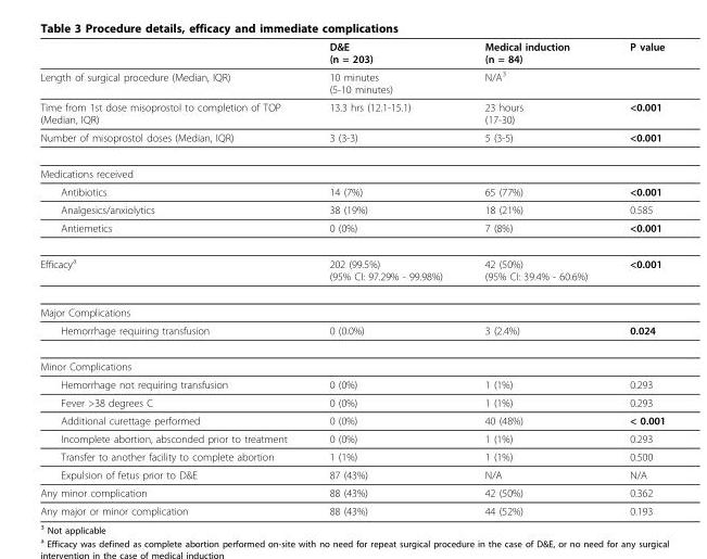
<table><thead><tr><td></td><td>D&amp;E (n = 203)</td><td>Medical induction (n = 84)</td><td>P value</td></tr></thead><tbody><tr><td>Length of surgical procedure (Median, IQR)</td><td>10 minutes (5-10 minutes)</td><td>N/A3</td><td></td></tr><tr><td>Time from 1st dose misoprostol to completion of TOP (Median, IQR)</td><td>13.3 hrs (12.1-15.1)</td><td>23 hours (17-30)</td><td>&lt;0.001</td></tr><tr><td>Number of misoprostol doses (Median, IQR)</td><td>3 (3-3)</td><td>5 (3-5)</td><td>&lt;0.001</td></tr><tr><td colspan="4">Medications received</td></tr><tr><td>Antibiotics</td><td>14 (7%)</td><td>65 (77%)</td><td>&lt;0.001</td></tr><tr><td>Analgesics/anxiolytics</td><td>38 (19%)</td><td>18 (21%)</td><td>0.585</td></tr><tr><td>Antiemetics</td><td>0 (0%)</td><td>7 (8%)</td><td>&lt;0.001</td></tr><tr><td>Efficacya</td><td>202 (99.5%) (95% CI: 97.29% - 99.98%)</td><td>42 (50%) (95% CI: 39.4% - 60.6%)</td><td>&lt;0.001</td></tr><tr><td colspan="4">Major Complications</td></tr><tr><td>Hemorrhage requiring transfusion</td><td>0 (0.0%)</td><td>3 (2.4%)</td><td>0.024</td></tr><tr><td colspan="4">Minor Complications</td></tr><tr><td>Hemorrhage not requiring transfusion</td><td>0 (0%)</td><td>1 (1%)</td><td>0.293</td></tr><tr><td>Fever &gt;38 degrees C</td><td>0 (0%)</td><td>1 (1%)</td><td>0.293</td></tr><tr><td>Additional curettage performed</td><td>0 (0%)</td><td>40 (48%)</td><td>&lt; 0.001</td></tr><tr><td>Incomplete abortion, absconded prior to treatment</td><td>0 (0%)</td><td>1 (1%)</td><td>0.293</td></tr><tr><td>Transfer to another facility to complete abortion</td><td>1 (1%)</td><td>1 (1%)</td><td>0.500</td></tr><tr><td>Expulsion of fetus prior to D&amp;E</td><td>87 (43%)</td><td>N/A</td><td>N/A</td></tr><tr><td>Any minor complication</td><td>88 (43%)</td><td>42 (50%)</td><td>0.362</td></tr><tr><td>Any major or minor complication</td><td>88 (43%)</td><td>44 (52%)</td><td>0.193</td></tr></tbody></table>